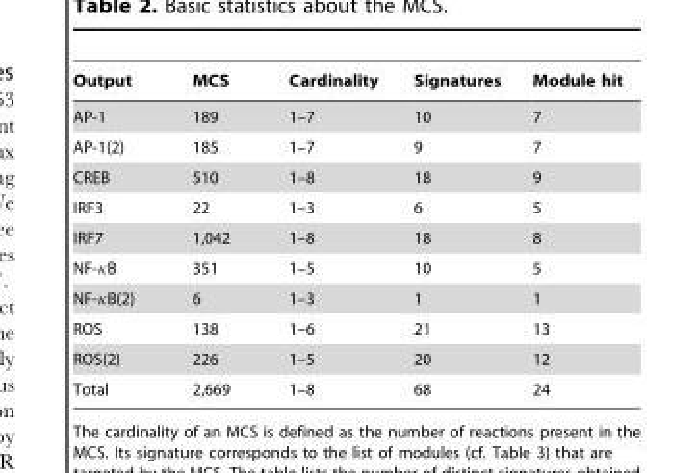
<table><thead><tr><td>Output</td><td>MCS</td><td>Cardinality</td><td>Signatures</td><td>Module hit</td></tr></thead><tbody><tr><td>AP-1</td><td>189</td><td>1–7</td><td>10</td><td>7</td></tr><tr><td>AP-1(2)</td><td>185</td><td>1–7</td><td>9</td><td>7</td></tr><tr><td>CREB</td><td>510</td><td>1–8</td><td>18</td><td>9</td></tr><tr><td>IRF3</td><td>22</td><td>1–3</td><td>6</td><td>5</td></tr><tr><td>IRF7</td><td>1,042</td><td>1–8</td><td>18</td><td>8</td></tr><tr><td>NF-kB</td><td>351</td><td>1–5</td><td>10</td><td>5</td></tr><tr><td>NF-kB(2)</td><td>6</td><td>1–3</td><td>1</td><td>1</td></tr><tr><td>ROS</td><td>138</td><td>1–6</td><td>21</td><td>13</td></tr><tr><td>ROS(2)</td><td>226</td><td>1–5</td><td>20</td><td>12</td></tr><tr><td>Total</td><td>2,669</td><td>1–8</td><td>68</td><td>24</td></tr></tbody></table>